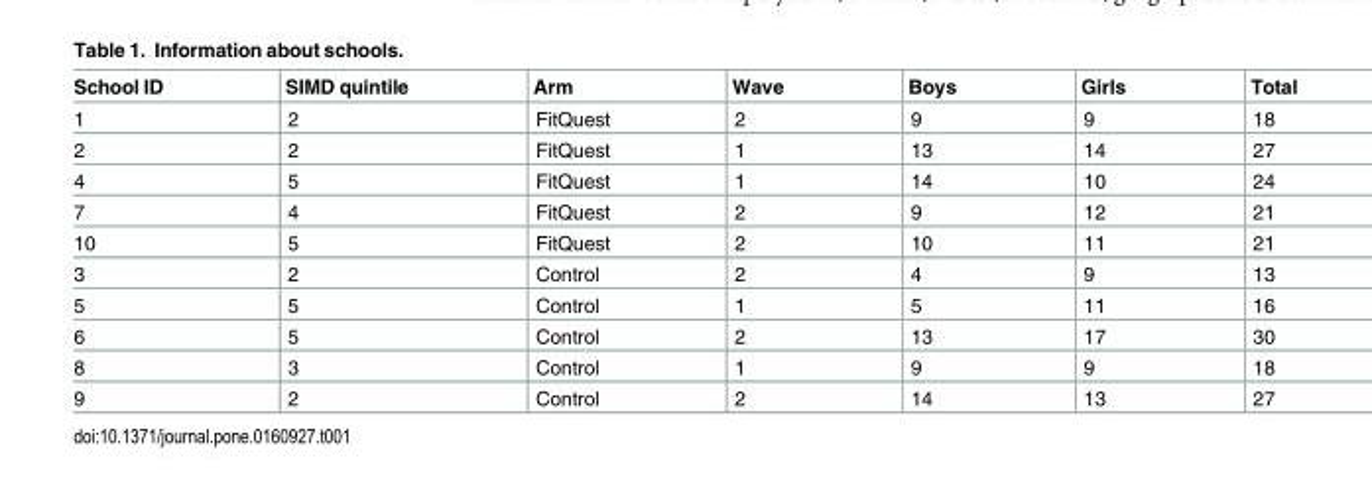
<table><thead><tr><td>School ID</td><td>SIMD quintile</td><td>Arm</td><td>Wave</td><td>Boys</td><td>Girls</td><td>Total</td></tr></thead><tbody><tr><td>1</td><td>2</td><td>FitQuest</td><td>2</td><td>9</td><td>9</td><td>18</td></tr><tr><td>2</td><td>2</td><td>FitQuest</td><td>1</td><td>13</td><td>14</td><td>27</td></tr><tr><td>4</td><td>5</td><td>FitQuest</td><td>1</td><td>14</td><td>10</td><td>24</td></tr><tr><td>7</td><td>4</td><td>FitQuest</td><td>2</td><td>9</td><td>12</td><td>21</td></tr><tr><td>10</td><td>5</td><td>FitQuest</td><td>2</td><td>10</td><td>11</td><td>21</td></tr><tr><td>3</td><td>2</td><td>Control</td><td>2</td><td>4</td><td>9</td><td>13</td></tr><tr><td>5</td><td>5</td><td>Control</td><td>1</td><td>5</td><td>11</td><td>16</td></tr><tr><td>6</td><td>5</td><td>Control</td><td>2</td><td>13</td><td>17</td><td>30</td></tr><tr><td>8</td><td>3</td><td>Control</td><td>1</td><td>9</td><td>9</td><td>18</td></tr><tr><td>9</td><td>2</td><td>Control</td><td>2</td><td>14</td><td>13</td><td>27</td></tr></tbody></table>